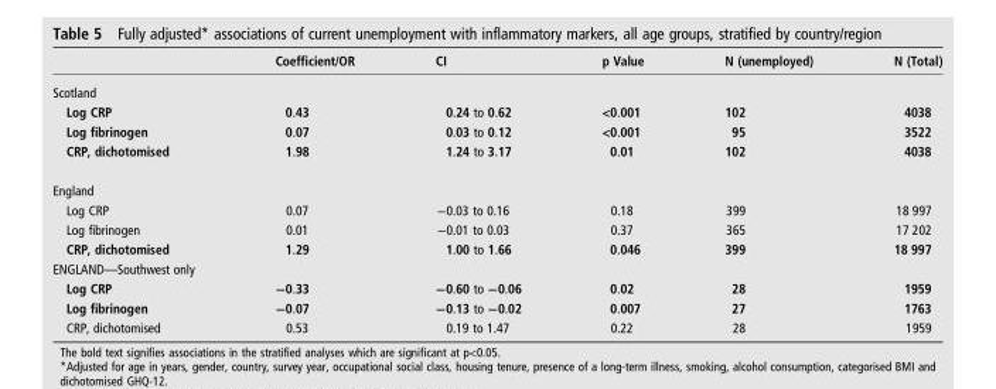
<table><thead><tr><td></td><td>Coefficient/OR</td><td>CI</td><td>p Value</td><td>N (unemployed)</td><td>N (Total)</td></tr></thead><tbody><tr><td colspan="6">Scotland</td></tr><tr><td>Log CRP</td><td>0.43</td><td>0.24 to 0.62</td><td>&lt;0.001</td><td>102</td><td>4038</td></tr><tr><td>Log fibrinogen</td><td>0.07</td><td>0.03 to 0.12</td><td>&lt;0.001</td><td>95</td><td>3522</td></tr><tr><td>CRP, dichotomised</td><td>1.98</td><td>1.24 to 3.17</td><td>0.01</td><td>102</td><td>4038</td></tr><tr><td colspan="6">England</td></tr><tr><td>Log CRP</td><td>0.07</td><td>−0.03 to 0.16</td><td>0.18</td><td>399</td><td>18 997</td></tr><tr><td>Log fibrinogen</td><td>0.01</td><td>−0.01 to 0.03</td><td>0.37</td><td>365</td><td>17 202</td></tr><tr><td>CRP, dichotomised</td><td>1.29</td><td>1.00 to 1.66</td><td>0.046</td><td>399</td><td>18 997</td></tr><tr><td colspan="6">ENGLAND—Southwest only</td></tr><tr><td>Log CRP</td><td>−0.33</td><td>−0.60 to −0.06</td><td>0.02</td><td>28</td><td>1959</td></tr><tr><td>Log fibrinogen</td><td>−0.07</td><td>−0.13 to −0.02</td><td>0.007</td><td>27</td><td>1763</td></tr><tr><td>CRP, dichotomised</td><td>0.53</td><td>0.19 to 1.47</td><td>0.22</td><td>28</td><td>1959</td></tr></tbody></table>